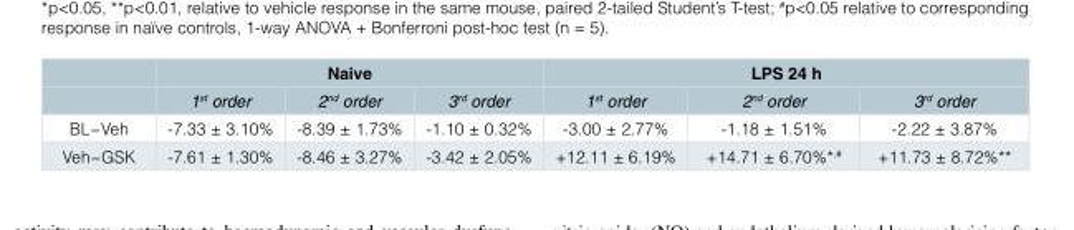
<table><thead><tr><td rowspan="2"></td><td colspan="3">Naive</td><td colspan="3">LPS 24 h</td></tr><tr><td>1<sup>st</sup> order</td><td>2<sup>nd</sup> order</td><td>3<sup>rd</sup> order</td><td>1<sup>st</sup> order</td><td>2<sup>nd</sup> order</td><td>3<sup>rd</sup> order</td></tr></thead><tbody><tr><td>BL−Veh</td><td>-7.33 ± 3.10%</td><td>-8.39 ± 1.73%</td><td>-1.10 ± 0.32%</td><td>-3.00 ± 2.77%</td><td>-1.18 ± 1.51%</td><td>-2.22 ± 3.87%</td></tr><tr><td>Veh−GSK</td><td>-7.61 ± 1.30%</td><td>-8.46 ± 3.27%</td><td>-3.42 ± 2.05%</td><td>+12.11 ± 6.19%</td><td>+14.71 ± 6.70%*<sup>,#</sup></td><td>+11.73 ± 8.72%**</td></tr></tbody></table>